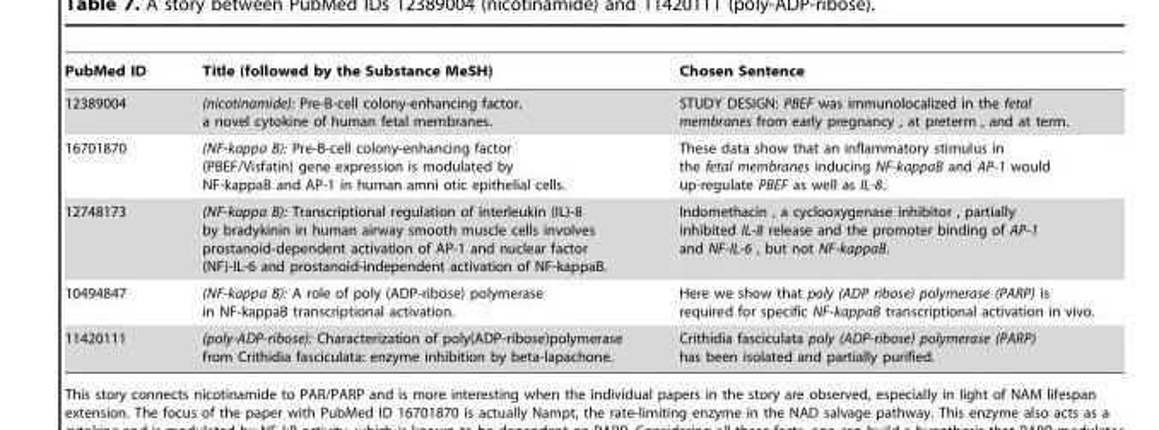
<table><thead><tr><td>PubMed ID</td><td>Title (followed by the Substance MeSH)</td><td>Chosen Sentence</td></tr></thead><tbody><tr><td>12389004</td><td>(nicotinamide): Pre-B-cell colony-enhancing factor, a novel cytokine of human fetal membranes.</td><td>STUDY DESIGN: PBEF was immunolocalized in the fetal membranes from early pregnancy , at preterm , and at term.</td></tr><tr><td>16701870</td><td>(NF-kappa B): Pre-B-cell colony-enhancing factor (PBEF/Visfatin) gene expression is modulated by NF-kappaB and AP-1 in human amni otic epithelial cells.</td><td>These data show that an inflammatory stimulus in the fetal membranes inducing NF-kappaB and AP-1 would up-regulate PBEF as well as IL-8.</td></tr><tr><td>12748173</td><td>(NF-kappa B): Transcriptional regulation of interleukin (IL)-8 by bradykinin in human airway smooth muscle cells involves prostanoid-dependent activation of AP-1 and nuclear factor (NF)-IL-6 and prostanoid-independent activation of NF-kappaB.</td><td>Indomethacin , a cyclooxygenase inhibitor , partially inhibited IL-8 release and the promoter binding of AP-1 and NF-IL-6 , but not NF-kappaB.</td></tr><tr><td>10494847</td><td>(NF-kappa B): A role of poly (ADP-ribose) polymerase in NF-kappaB transcriptional activation.</td><td>Here we show that poly (ADP ribose) polymerase (PARP) is required for specific NF-kappaB transcriptional activation in vivo.</td></tr><tr><td>11420111</td><td>(poly-ADP-ribose): Characterization of poly(ADP-ribose)polymerase from Crithidia fasciculata: enzyme inhibition by beta-lapachone.</td><td>Crithidia fasciculata poly (ADP-ribose) polymerase (PARP) has been isolated and partially purified.</td></tr></tbody></table>